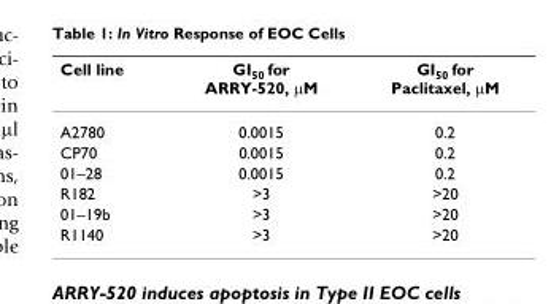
<table><thead><tr><td>Cell line</td><td>GI50 for ARRY-520, μM</td><td>GI50 for Paclitaxel, μM</td></tr></thead><tbody><tr><td>A2780</td><td>0.0015</td><td>0.2</td></tr><tr><td>CP70</td><td>0.0015</td><td>0.2</td></tr><tr><td>01–28</td><td>0.0015</td><td>0.2</td></tr><tr><td>R182</td><td>&gt;3</td><td>&gt;20</td></tr><tr><td>01–19b</td><td>&gt;3</td><td>&gt;20</td></tr><tr><td>R1140</td><td>&gt;3</td><td>&gt;20</td></tr></tbody></table>